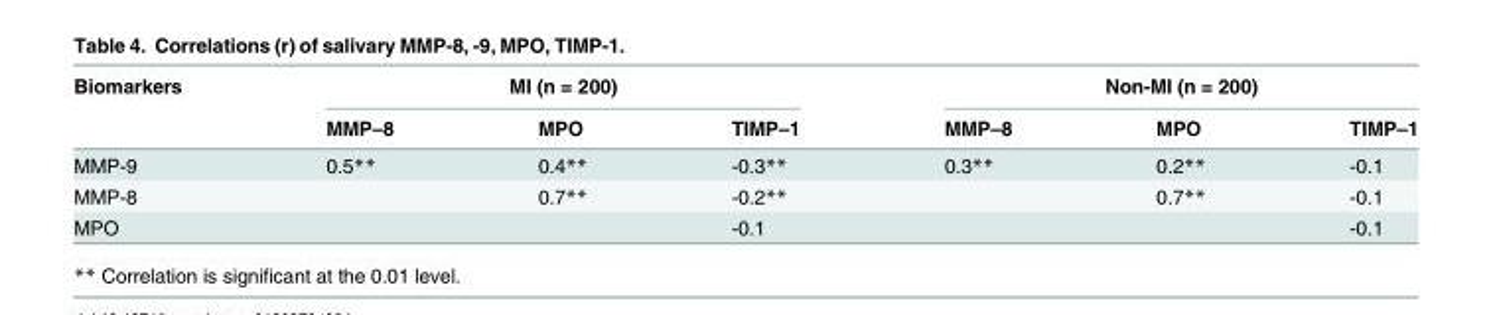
<table><thead><tr><td rowspan="2">Biomarkers</td><td colspan="3">MI (n = 200)</td><td colspan="3">Non-MI (n = 200)</td></tr><tr><td>MMP–8</td><td>MPO</td><td>TIMP–1</td><td>MMP–8</td><td>MPO</td><td>TIMP–1</td></tr></thead><tbody><tr><td>MMP-9</td><td>0.5**</td><td>0.4**</td><td>-0.3**</td><td>0.3**</td><td>0.2**</td><td>-0.1</td></tr><tr><td>MMP-8</td><td></td><td>0.7**</td><td>-0.2**</td><td></td><td>0.7**</td><td>-0.1</td></tr><tr><td>MPO</td><td></td><td></td><td>-0.1</td><td></td><td></td><td>-0.1</td></tr></tbody></table>